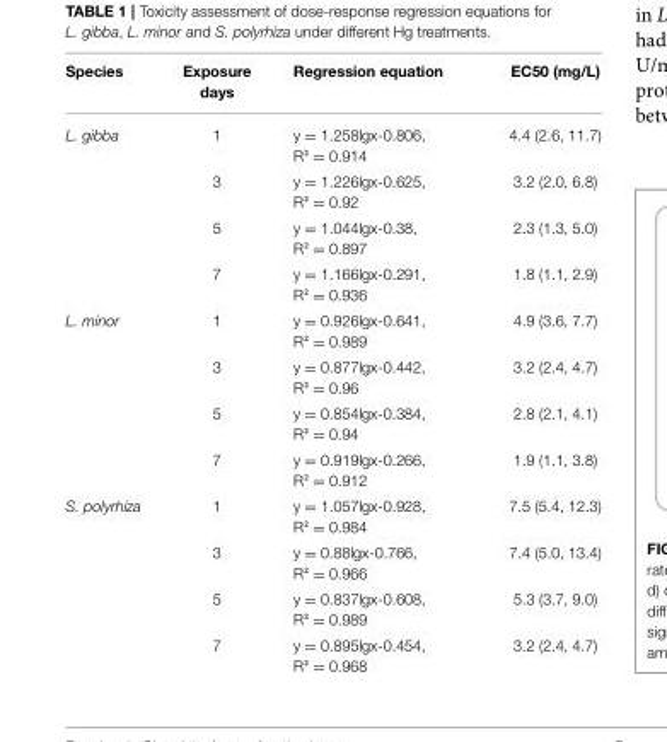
<table><thead><tr><td>Species</td><td>Exposure days</td><td>Regression equation</td><td>EC50 (mg/L)</td></tr></thead><tbody><tr><td rowspan="4">L. gibba</td><td>1</td><td>y = 1.258lgx-0.806, R² = 0.914</td><td>4.4 (2.6, 11.7)</td></tr><tr><td>3</td><td>y = 1.226lgx-0.625, R² = 0.92</td><td>3.2 (2.0, 6.8)</td></tr><tr><td>5</td><td>y = 1.044lgx-0.38, R² = 0.897</td><td>2.3 (1.3, 5.0)</td></tr><tr><td>7</td><td>y = 1.166lgx-0.291, R² = 0.936</td><td>1.8 (1.1, 2.9)</td></tr><tr><td rowspan="4">L. minor</td><td>1</td><td>y = 0.926lgx-0.641, R² = 0.989</td><td>4.9 (3.6, 7.7)</td></tr><tr><td>3</td><td>y = 0.877lgx-0.442, R² = 0.96</td><td>3.2 (2.4, 4.7)</td></tr><tr><td>5</td><td>y = 0.854lgx-0.384, R² = 0.94</td><td>2.8 (2.1, 4.1)</td></tr><tr><td>7</td><td>y = 0.919lgx-0.266, R² = 0.912</td><td>1.9 (1.1, 3.8)</td></tr><tr><td rowspan="4">S. polyrhiza</td><td>1</td><td>y = 1.057lgx-0.928, R² = 0.984</td><td>7.5 (5.4, 12.3)</td></tr><tr><td>3</td><td>y = 0.88lgx-0.766, R² = 0.966</td><td>7.4 (5.0, 13.4)</td></tr><tr><td>5</td><td>y = 0.837lgx-0.608, R² = 0.989</td><td>5.3 (3.7, 9.0)</td></tr><tr><td>7</td><td>y = 0.895lgx-0.454, R² = 0.968</td><td>3.2 (2.4, 4.7)</td></tr></tbody></table>